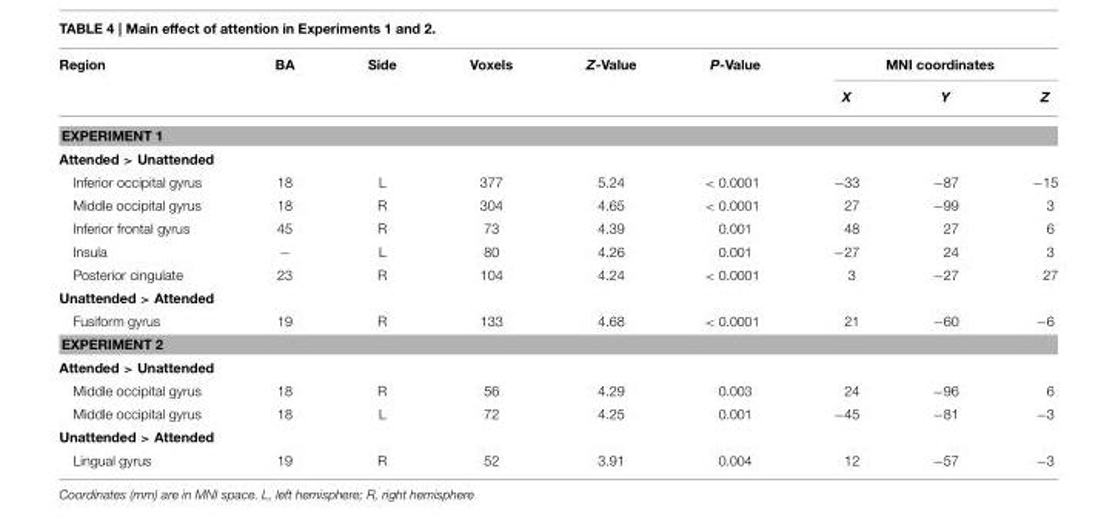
<table><thead><tr><td rowspan="2">Region</td><td rowspan="2">BA</td><td rowspan="2">Side</td><td rowspan="2">Voxels</td><td rowspan="2">Z-Value</td><td rowspan="2">P-Value</td><td colspan="3">MNI coordinates</td></tr><tr><td>X</td><td>Y</td><td>Z</td></tr></thead><tbody><tr><td colspan="9">EXPERIMENT 1</td></tr><tr><td colspan="9">Attended &gt; Unattended</td></tr><tr><td>Inferior occipital gyrus</td><td>18</td><td>L</td><td>377</td><td>5.24</td><td>&lt; 0.0001</td><td>−33</td><td>−87</td><td>−15</td></tr><tr><td>Middle occipital gyrus</td><td>18</td><td>R</td><td>304</td><td>4.65</td><td>&lt; 0.0001</td><td>27</td><td>−99</td><td>3</td></tr><tr><td>Inferior frontal gyrus</td><td>45</td><td>R</td><td>73</td><td>4.39</td><td>0.001</td><td>48</td><td>27</td><td>6</td></tr><tr><td>Insula</td><td>−</td><td>L</td><td>80</td><td>4.26</td><td>0.001</td><td>−27</td><td>24</td><td>3</td></tr><tr><td>Posterior cingulate</td><td>23</td><td>R</td><td>104</td><td>4.24</td><td>&lt; 0.0001</td><td>3</td><td>−27</td><td>27</td></tr><tr><td colspan="9">Unattended &gt; Attended</td></tr><tr><td>Fusiform gyrus</td><td>19</td><td>R</td><td>133</td><td>4.68</td><td>&lt; 0.0001</td><td>21</td><td>−60</td><td>−6</td></tr><tr><td colspan="9">EXPERIMENT 2</td></tr><tr><td colspan="9">Attended &gt; Unattended</td></tr><tr><td>Middle occipital gyrus</td><td>18</td><td>R</td><td>56</td><td>4.29</td><td>0.003</td><td>24</td><td>−96</td><td>6</td></tr><tr><td>Middle occipital gyrus</td><td>18</td><td>L</td><td>72</td><td>4.25</td><td>0.001</td><td>−45</td><td>−81</td><td>−3</td></tr><tr><td colspan="9">Unattended &gt; Attended</td></tr><tr><td>Lingual gyrus</td><td>19</td><td>R</td><td>52</td><td>3.91</td><td>0.004</td><td>12</td><td>−57</td><td>−3</td></tr></tbody></table>